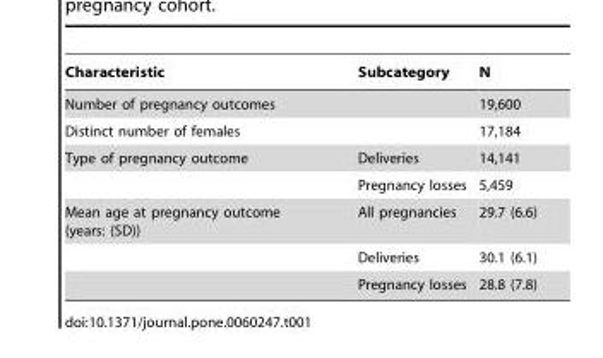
<table><thead><tr><td>Characteristic</td><td>Subcategory</td><td>N</td></tr></thead><tbody><tr><td colspan="2">Number of pregnancy outcomes</td><td>19,600</td></tr><tr><td colspan="2">Distinct number of females</td><td>17,184</td></tr><tr><td rowspan="2">Type of pregnancy outcome</td><td>Deliveries</td><td>14,141</td></tr><tr><td>Pregnancy losses</td><td>5,459</td></tr><tr><td rowspan="3">Mean age at pregnancy outcome (years: (SD))</td><td>All pregnancies</td><td>29.7 (6.6)</td></tr><tr><td>Deliveries</td><td>30.1 (6.1)</td></tr><tr><td>Pregnancy losses</td><td>28.8 (7.8)</td></tr></tbody></table>